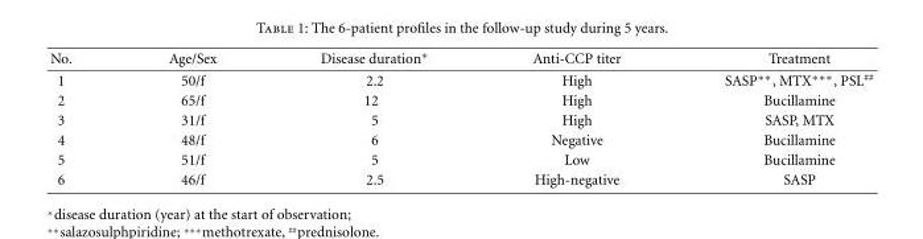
<table><tbody><tr><td>No.</td><td>Age/Sex</td><td>Disease duration∗</td><td>Anti-CCP titer</td><td>Treatment</td></tr><tr><td>1</td><td>50/f</td><td>2.2</td><td>High</td><td>SASP∗∗, MTX∗∗∗, PSL##</td></tr><tr><td>2</td><td>65/f</td><td>12</td><td>High</td><td>Bucillamine</td></tr><tr><td>3</td><td>31/f</td><td>5</td><td>High</td><td>SASP, MTX</td></tr><tr><td>4</td><td>48/f</td><td>6</td><td>Negative</td><td>Bucillamine</td></tr><tr><td>5</td><td>51/f</td><td>5</td><td>Low</td><td>Bucillamine</td></tr><tr><td>6</td><td>46/f</td><td>2.5</td><td>High-negative</td><td>SASP</td></tr></tbody></table>